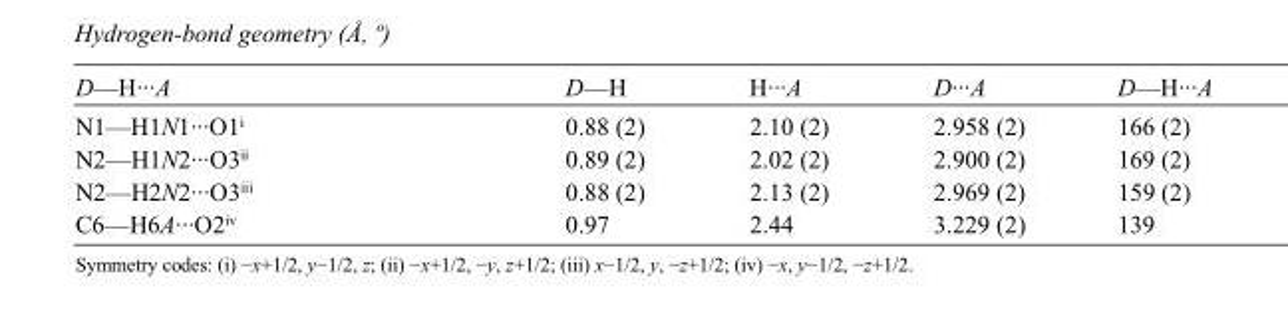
<table><tbody><tr><td>D—H···A</td><td>D—H</td><td>H···A</td><td>D···A</td><td>D—H···A</td></tr><tr><td>N1—H1N1···O1<sup>i</sup></td><td>0.88 (2)</td><td>2.10 (2)</td><td>2.958 (2)</td><td>166 (2)</td></tr><tr><td>N2—H1N2···O3<sup>ii</sup></td><td>0.89 (2)</td><td>2.02 (2)</td><td>2.900 (2)</td><td>169 (2)</td></tr><tr><td>N2—H2N2···O3<sup>iii</sup></td><td>0.88 (2)</td><td>2.13 (2)</td><td>2.969 (2)</td><td>159 (2)</td></tr><tr><td>C6—H6A···O2<sup>iv</sup></td><td>0.97</td><td>2.44</td><td>3.229 (2)</td><td>139</td></tr></tbody></table>